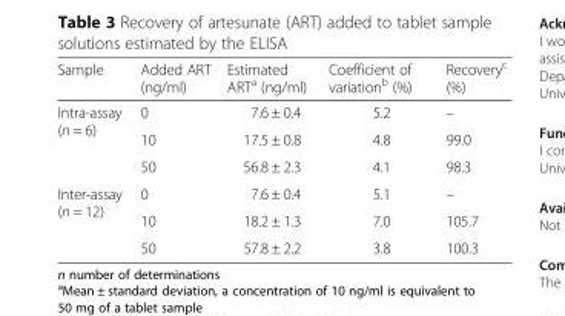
<table><thead><tr><td>Sample</td><td>Added ART (ng/ml)</td><td>Estimated ART<sup>a</sup> (ng/ml)</td><td>Coefficient of variation<sup>b</sup> (%)</td><td>Recovery<sup>c</sup> (%)</td></tr></thead><tbody><tr><td rowspan="3">Intra-assay (n = 6)</td><td>0</td><td>7.6 ± 0.4</td><td>5.2</td><td>–</td></tr><tr><td>10</td><td>17.5 ± 0.8</td><td>4.8</td><td>99.0</td></tr><tr><td>50</td><td>56.8 ± 2.3</td><td>4.1</td><td>98.3</td></tr><tr><td rowspan="3">Inter-assay (n = 12)</td><td>0</td><td>7.6 ± 0.4</td><td>5.1</td><td>–</td></tr><tr><td>10</td><td>18.2 ± 1.3</td><td>7.0</td><td>105.7</td></tr><tr><td>50</td><td>57.8 ± 2.2</td><td>3.8</td><td>100.3</td></tr></tbody></table>